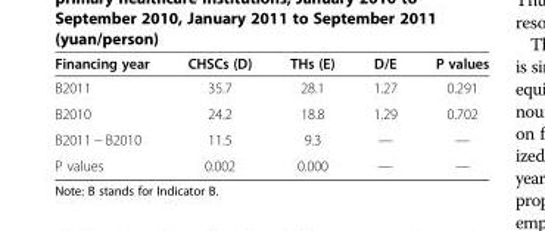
<table><thead><tr><td>Financing year</td><td>CHSCs (D)</td><td>THs (E)</td><td>D/E</td><td>P values</td></tr></thead><tbody><tr><td>B2011</td><td>35.7</td><td>28.1</td><td>1.27</td><td>0.291</td></tr><tr><td>B2010</td><td>24.2</td><td>18.8</td><td>1.29</td><td>0.702</td></tr><tr><td>B2011 − B2010</td><td>11.5</td><td>9.3</td><td>—</td><td>—</td></tr><tr><td>P values</td><td>0.002</td><td>0.000</td><td>—</td><td>—</td></tr></tbody></table>